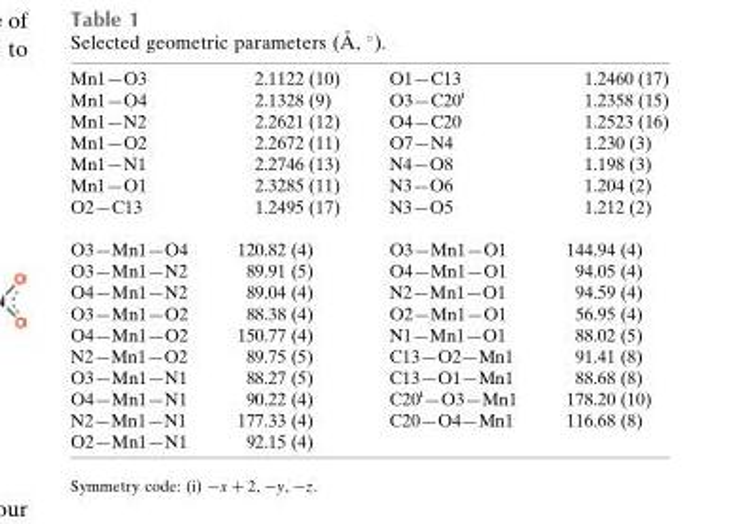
<table><tbody><tr><td>Mn1—O3</td><td>2.1122 (10)</td><td>O1—C13</td><td>1.2460 (17)</td></tr><tr><td>Mn1—O4</td><td>2.1328 (9)</td><td>O3—C20<sup>i</sup></td><td>1.2358 (15)</td></tr><tr><td>Mn1—N2</td><td>2.2621 (12)</td><td>O4—C20</td><td>1.2523 (16)</td></tr><tr><td>Mn1—O2</td><td>2.2672 (11)</td><td>O7—N4</td><td>1.230 (3)</td></tr><tr><td>Mn1—N1</td><td>2.2746 (13)</td><td>N4—O8</td><td>1.198 (3)</td></tr><tr><td>Mn1—O1</td><td>2.3285 (11)</td><td>N3—O6</td><td>1.204 (2)</td></tr><tr><td>O2—C13</td><td>1.2495 (17)</td><td>N3—O5</td><td>1.212 (2)</td></tr><tr><td>O3—Mn1—O4</td><td>120.82 (4)</td><td>O3—Mn1—O1</td><td>144.94 (4)</td></tr><tr><td>O3—Mn1—N2</td><td>89.91 (5)</td><td>O4—Mn1—O1</td><td>94.05 (4)</td></tr><tr><td>O4—Mn1—N2</td><td>89.04 (4)</td><td>N2—Mn1—O1</td><td>94.59 (4)</td></tr><tr><td>O3—Mn1—O2</td><td>88.38 (4)</td><td>O2—Mn1—O1</td><td>56.95 (4)</td></tr><tr><td>O4—Mn1—O2</td><td>150.77 (4)</td><td>N1—Mn1—O1</td><td>88.02 (5)</td></tr><tr><td>N2—Mn1—O2</td><td>89.75 (5)</td><td>C13—O2—Mn1</td><td>91.41 (8)</td></tr><tr><td>O3—Mn1—N1</td><td>88.27 (5)</td><td>C13—O1—Mn1</td><td>88.68 (8)</td></tr><tr><td>O4—Mn1—N1</td><td>90.22 (4)</td><td>C20<sup>i</sup>—O3—Mn1</td><td>178.20 (10)</td></tr><tr><td>N2—Mn1—N1</td><td>177.33 (4)</td><td>C20—O4—Mn1</td><td>116.68 (8)</td></tr><tr><td>O2—Mn1—N1</td><td>92.15 (4)</td><td></td><td></td></tr></tbody></table>